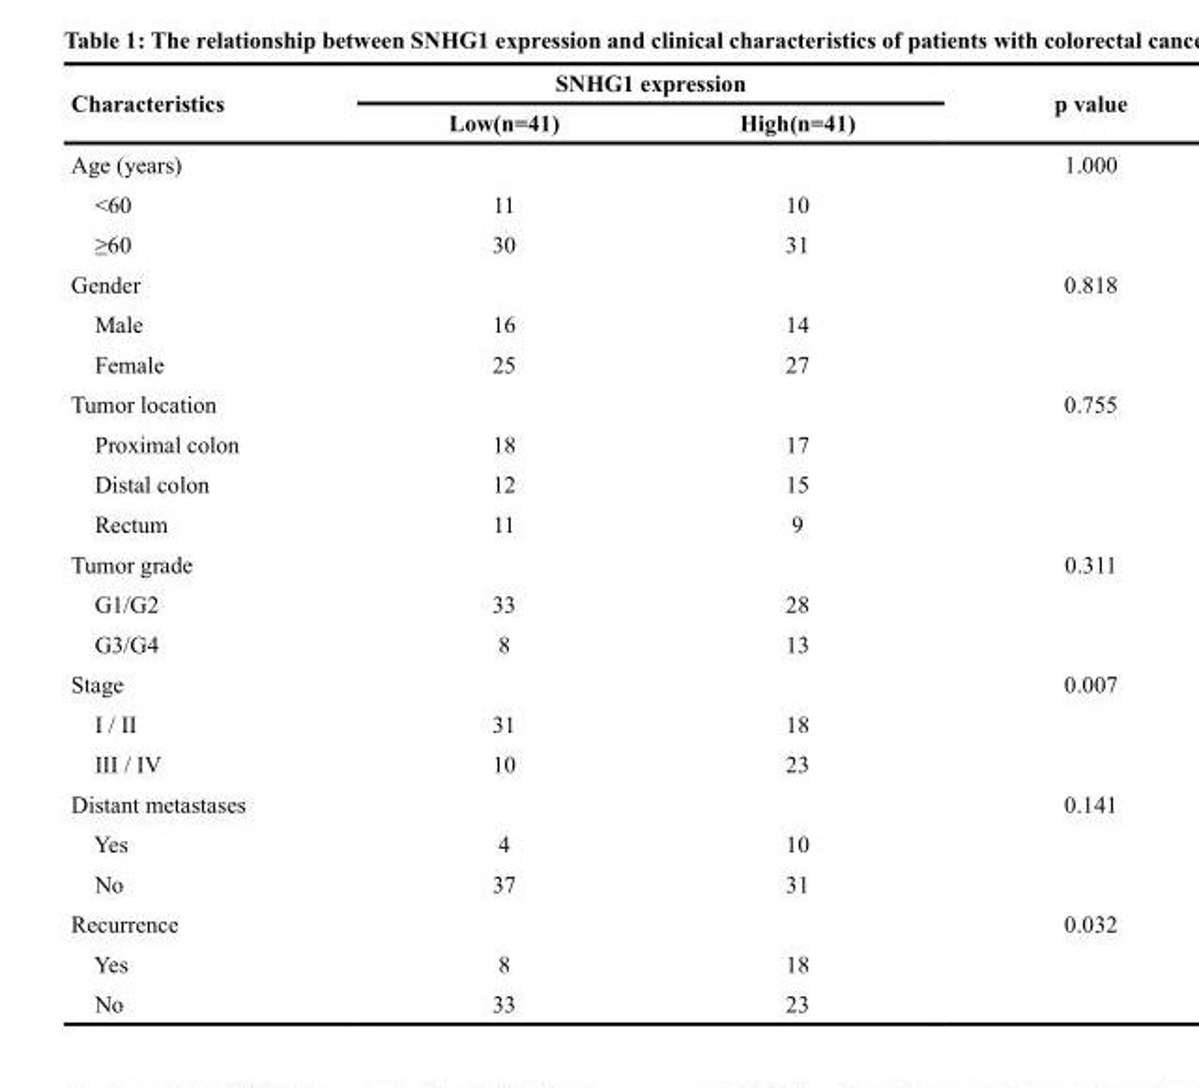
<table><thead><tr><td rowspan="2">Characteristics</td><td colspan="2">SNHG1 expression</td><td rowspan="2">p value</td></tr><tr><td>Low(n=41)</td><td>High(n=41)</td></tr></thead><tbody><tr><td>Age (years)</td><td></td><td></td><td>1.000</td></tr><tr><td>&lt;60</td><td>11</td><td>10</td><td></td></tr><tr><td>≥60</td><td>30</td><td>31</td><td></td></tr><tr><td>Gender</td><td></td><td></td><td>0.818</td></tr><tr><td>Male</td><td>16</td><td>14</td><td></td></tr><tr><td>Female</td><td>25</td><td>27</td><td></td></tr><tr><td>Tumor location</td><td></td><td></td><td>0.755</td></tr><tr><td>Proximal colon</td><td>18</td><td>17</td><td></td></tr><tr><td>Distal colon</td><td>12</td><td>15</td><td></td></tr><tr><td>Rectum</td><td>11</td><td>9</td><td></td></tr><tr><td>Tumor grade</td><td></td><td></td><td>0.311</td></tr><tr><td>G1/G2</td><td>33</td><td>28</td><td></td></tr><tr><td>G3/G4</td><td>8</td><td>13</td><td></td></tr><tr><td>Stage</td><td></td><td></td><td>0.007</td></tr><tr><td>I / II</td><td>31</td><td>18</td><td></td></tr><tr><td>III / IV</td><td>10</td><td>23</td><td></td></tr><tr><td>Distant metastases</td><td></td><td></td><td>0.141</td></tr><tr><td>Yes</td><td>4</td><td>10</td><td></td></tr><tr><td>No</td><td>37</td><td>31</td><td></td></tr><tr><td>Recurrence</td><td></td><td></td><td>0.032</td></tr><tr><td>Yes</td><td>8</td><td>18</td><td></td></tr><tr><td>No</td><td>33</td><td>23</td><td></td></tr></tbody></table>